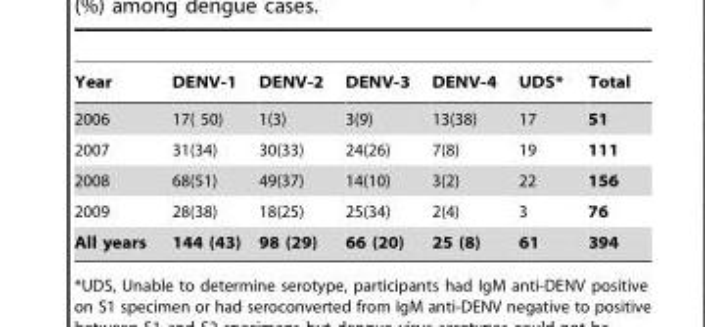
<table><thead><tr><td>Year</td><td>DENV-1</td><td>DENV-2</td><td>DENV-3</td><td>DENV-4</td><td>UDS*</td><td>Total</td></tr></thead><tbody><tr><td>2006</td><td>17( 50)</td><td>1(3)</td><td>3(9)</td><td>13(38)</td><td>17</td><td>51</td></tr><tr><td>2007</td><td>31(34)</td><td>30(33)</td><td>24(26)</td><td>7(8)</td><td>19</td><td>111</td></tr><tr><td>2008</td><td>68(51)</td><td>49(37)</td><td>14(10)</td><td>3(2)</td><td>22</td><td>156</td></tr><tr><td>2009</td><td>28(38)</td><td>18(25)</td><td>25(34)</td><td>2(4)</td><td>3</td><td>76</td></tr><tr><td>All years</td><td>144 (43)</td><td>98 (29)</td><td>66 (20)</td><td>25 (8)</td><td>61</td><td>394</td></tr></tbody></table>